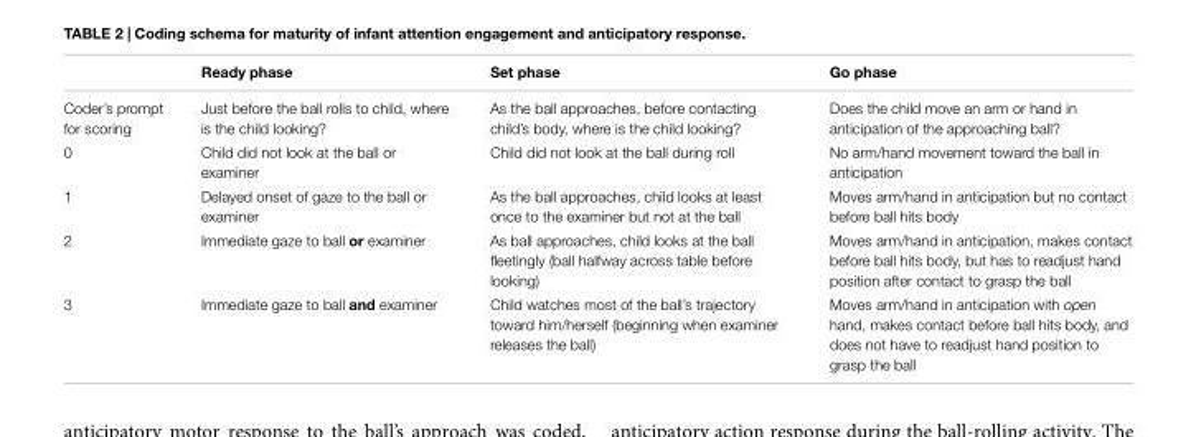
<table><thead><tr><td></td><td>Ready phase</td><td>Set phase</td><td>Go phase</td></tr></thead><tbody><tr><td>Coder’s prompt for scoring</td><td>Just before the ball rolls to child, where is the child looking?</td><td>As the ball approaches, before contacting child’s body, where is the child looking?</td><td>Does the child move an arm or hand in anticipation of the approaching ball?</td></tr><tr><td>0</td><td>Child did not look at the ball or examiner</td><td>Child did not look at the ball during roll</td><td>No arm/hand movement toward the ball in anticipation</td></tr><tr><td>1</td><td>Delayed onset of gaze to the ball or examiner</td><td>As the ball approaches, child looks at least once to the examiner but not at the ball</td><td>Moves arm/hand in anticipation but no contact before ball hits body</td></tr><tr><td>2</td><td>Immediate gaze to ball or examiner</td><td>As ball approaches, child looks at the ball fleetingly (ball halfway across table before looking)</td><td>Moves arm/hand in anticipation, makes contact before ball hits body, but has to readjust hand position after contact to grasp the ball</td></tr><tr><td>3</td><td>Immediate gaze to ball and examiner</td><td>Child watches most of the ball’s trajectory toward him/herself (beginning when examiner releases the ball)</td><td>Moves arm/hand in anticipation with open hand, makes contact before ball hits body, and does not have to readjust hand position to grasp the ball</td></tr></tbody></table>